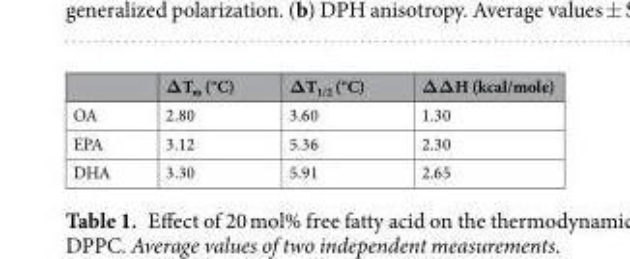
<table><thead><tr><td></td><td>ΔT<sub>m</sub> (°C)</td><td>ΔT<sub>1/2</sub> (°C)</td><td>ΔΔH (kcal/mole)</td></tr></thead><tbody><tr><td>OA</td><td>2.80</td><td>3.60</td><td>1.30</td></tr><tr><td>EPA</td><td>3.12</td><td>5.36</td><td>2.30</td></tr><tr><td>DHA</td><td>3.30</td><td>5.91</td><td>2.65</td></tr></tbody></table>